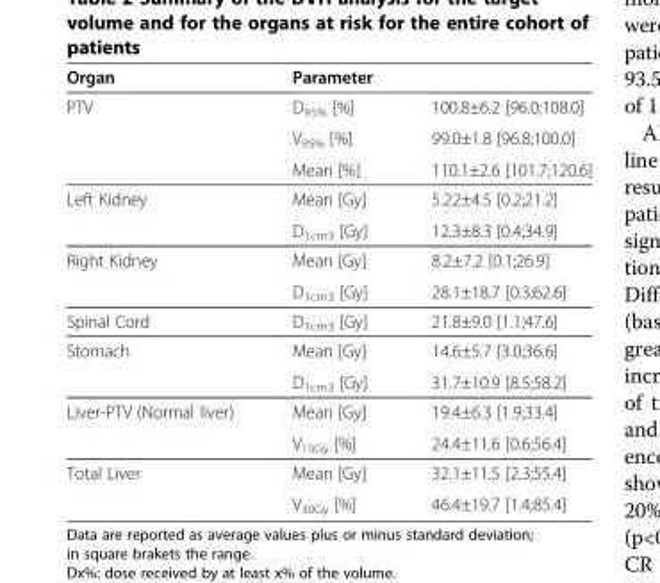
<table><thead><tr><td>Organ</td><td>Parameter</td><td></td></tr></thead><tbody><tr><td rowspan="3">PTV</td><td>D<sub>95%</sub> [%]</td><td>100.8±6.2 [96.0;108.0]</td></tr><tr><td>V<sub>95%</sub> [%]</td><td>99.0±1.8 [96.8;100.0]</td></tr><tr><td>Mean [%]</td><td>110.1±2.6 [101.7;120.6]</td></tr><tr><td rowspan="2">Left Kidney</td><td>Mean [Gy]</td><td>5.22±4.5 [0.2;21.2]</td></tr><tr><td>D<sub>1cm3</sub> [Gy]</td><td>12.3±8.3 [0.4;34.9]</td></tr><tr><td rowspan="2">Right Kidney</td><td>Mean [Gy]</td><td>8.2±7.2 [0.1;26.9]</td></tr><tr><td>D<sub>1cm3</sub> [Gy]</td><td>28.1±18.7 [0.3;62.6]</td></tr><tr><td>Spinal Cord</td><td>D<sub>1cm3</sub> [Gy]</td><td>21.8±9.0 [1.1;47.6]</td></tr><tr><td rowspan="2">Stomach</td><td>Mean [Gy]</td><td>14.6±5.7 [3.0;36.6]</td></tr><tr><td>D<sub>1cm3</sub> [Gy]</td><td>31.7±10.9 [8.5;58.2]</td></tr><tr><td rowspan="2">Liver-PTV (Normal liver)</td><td>Mean [Gy]</td><td>19.4±6.3 [1.9;33.4]</td></tr><tr><td>V<sub>15Gy</sub> [%]</td><td>24.4±11.6 [0.6;56.4]</td></tr><tr><td rowspan="2">Total Liver</td><td>Mean [Gy]</td><td>32.1±11.5 [2.3;55.4]</td></tr><tr><td>V<sub>30Gy</sub> [%]</td><td>46.4±19.7 [1.4;85.4]</td></tr></tbody></table>